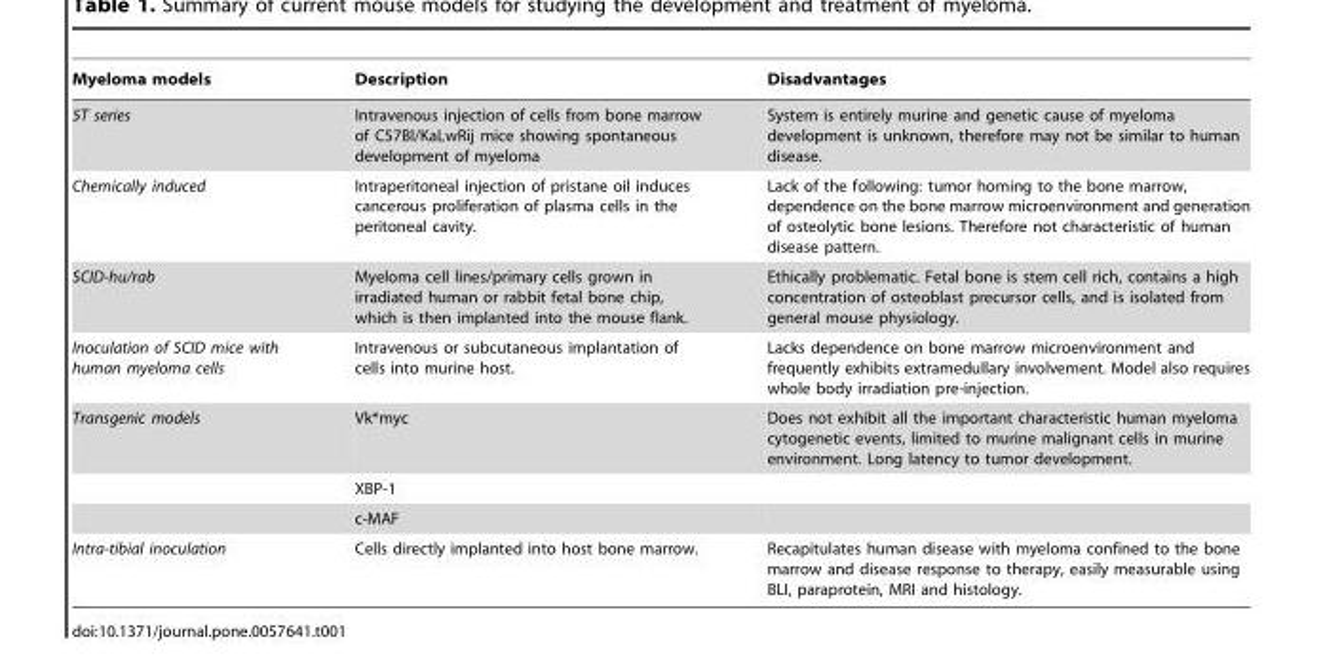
<table><thead><tr><td>Myeloma models</td><td>Description</td><td>Disadvantages</td></tr></thead><tbody><tr><td>5T series</td><td>Intravenous injection of cells from bone marrow of C57Bl/KaLwRij mice showing spontaneous development of myeloma</td><td>System is entirely murine and genetic cause of myeloma development is unknown, therefore may not be similar to human disease.</td></tr><tr><td>Chemically induced</td><td>Intraperitoneal injection of pristane oil induces cancerous proliferation of plasma cells in the peritoneal cavity.</td><td>Lack of the following: tumor homing to the bone marrow, dependence on the bone marrow microenvironment and generation of osteolytic bone lesions. Therefore not characteristic of human disease pattern.</td></tr><tr><td>SCID-hu/rab</td><td>Myeloma cell lines/primary cells grown in irradiated human or rabbit fetal bone chip, which is then implanted into the mouse flank.</td><td>Ethically problematic. Fetal bone is stem cell rich, contains a high concentration of osteoblast precursor cells, and is isolated from general mouse physiology.</td></tr><tr><td>Inoculation of SCID mice with human myeloma cells</td><td>Intravenous or subcutaneous implantation of cells into murine host.</td><td>Lacks dependence on bone marrow microenvironment and frequently exhibits extramedullary involvement. Model also requires whole body irradiation pre-injection.</td></tr><tr><td rowspan="3">Transgenic models</td><td>Vk*myc</td><td>Does not exhibit all the important characteristic human myeloma cytogenetic events, limited to murine malignant cells in murine environment. Long latency to tumor development.</td></tr><tr><td>XBP-1</td><td></td></tr><tr><td>c-MAF</td><td></td></tr><tr><td>Intra-tibial inoculation</td><td>Cells directly implanted into host bone marrow.</td><td>Recapitulates human disease with myeloma confined to the bone marrow and disease response to therapy, easily measurable using BLI, paraprotein, MRI and histology.</td></tr></tbody></table>